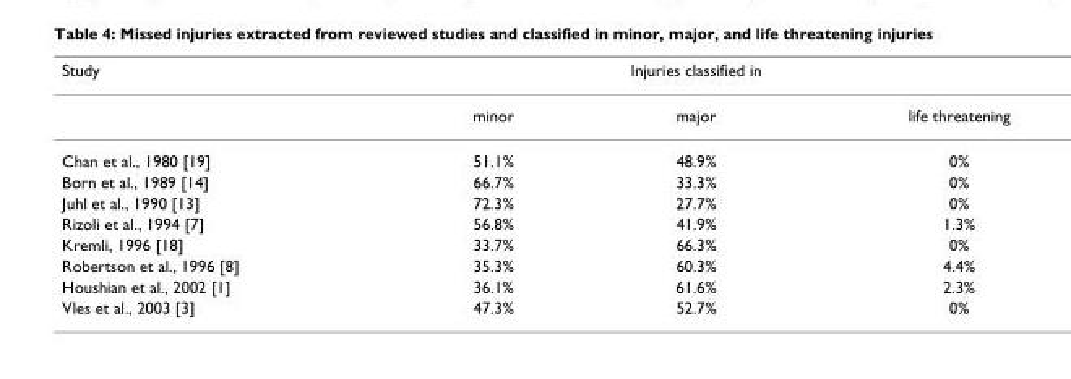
<table><thead><tr><td>Study</td><td></td><td>Injuries classified in</td><td></td></tr></thead><tbody><tr><td></td><td>minor</td><td>major</td><td>life threatening</td></tr><tr><td>Chan et al., 1980 [19]</td><td>51.1%</td><td>48.9%</td><td>0%</td></tr><tr><td>Born et al., 1989 [14]</td><td>66.7%</td><td>33.3%</td><td>0%</td></tr><tr><td>Juhl et al., 1990 [13]</td><td>72.3%</td><td>27.7%</td><td>0%</td></tr><tr><td>Rizoli et al., 1994 [7]</td><td>56.8%</td><td>41.9%</td><td>1.3%</td></tr><tr><td>Kremli, 1996 [18]</td><td>33.7%</td><td>66.3%</td><td>0%</td></tr><tr><td>Robertson et al., 1996 [8]</td><td>35.3%</td><td>60.3%</td><td>4.4%</td></tr><tr><td>Houshian et al., 2002 [1]</td><td>36.1%</td><td>61.6%</td><td>2.3%</td></tr><tr><td>Vles et al., 2003 [3]</td><td>47.3%</td><td>52.7%</td><td>0%</td></tr></tbody></table>